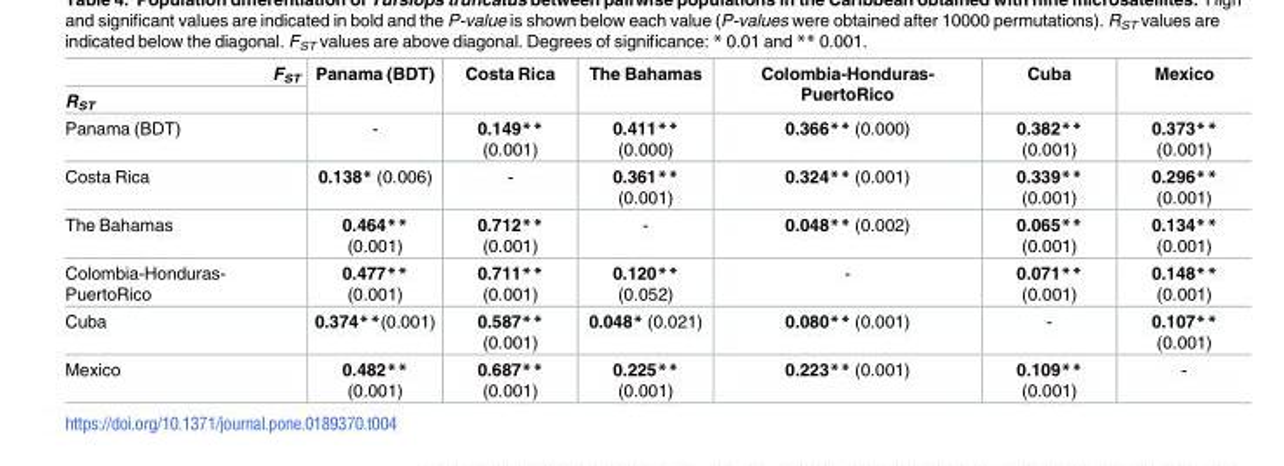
<table><thead><tr><td rowspan="2">F<sub>ST</sub> R<sub>ST</sub></td><td rowspan="2">Panama (BDT)</td><td rowspan="2">Costa Rica</td><td rowspan="2">The Bahamas</td><td rowspan="2">Colombia-Honduras- PuertoRico</td><td rowspan="2">Cuba</td><td rowspan="2">Mexico</td></tr><tr></tr></thead><tbody><tr><td>Panama (BDT)</td><td>-</td><td>0.149** (0.001)</td><td>0.411** (0.000)</td><td>0.366** (0.000)</td><td>0.382** (0.001)</td><td>0.373** (0.001)</td></tr><tr><td>Costa Rica</td><td>0.138* (0.006)</td><td>-</td><td>0.361** (0.001)</td><td>0.324** (0.001)</td><td>0.339** (0.001)</td><td>0.296** (0.001)</td></tr><tr><td>The Bahamas</td><td>0.464** (0.001)</td><td>0.712** (0.001)</td><td>-</td><td>0.048** (0.002)</td><td>0.065** (0.001)</td><td>0.134** (0.001)</td></tr><tr><td>Colombia-Honduras- PuertoRico</td><td>0.477** (0.001)</td><td>0.711** (0.001)</td><td>0.120** (0.052)</td><td>-</td><td>0.071** (0.001)</td><td>0.148** (0.001)</td></tr><tr><td>Cuba</td><td>0.374**(0.001)</td><td>0.587** (0.001)</td><td>0.048* (0.021)</td><td>0.080** (0.001)</td><td>-</td><td>0.107** (0.001)</td></tr><tr><td>Mexico</td><td>0.482** (0.001)</td><td>0.687** (0.001)</td><td>0.225** (0.001)</td><td>0.223** (0.001)</td><td>0.109** (0.001)</td><td>-</td></tr></tbody></table>